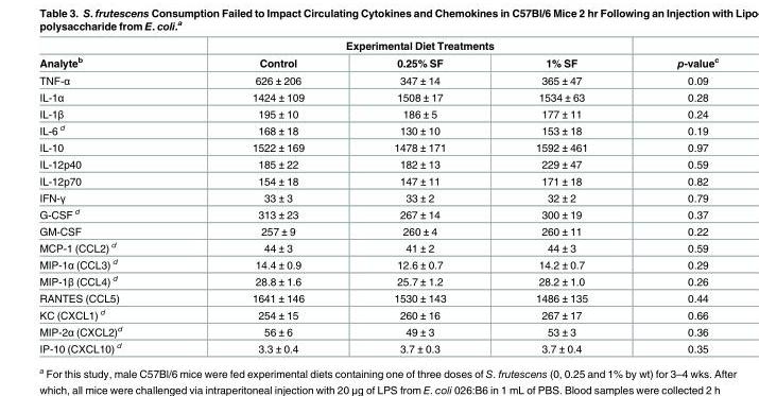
<table><thead><tr><td rowspan="2">Analyte<sup>b</sup></td><td colspan="3">Experimental Diet Treatments</td><td rowspan="2">p-value<sup>c</sup></td></tr><tr><td>Control</td><td>0.25% SF</td><td>1% SF</td></tr></thead><tbody><tr><td>TNF-α</td><td>626 ± 206</td><td>347 ± 14</td><td>365 ± 47</td><td>0.09</td></tr><tr><td>IL-1α</td><td>1424 ± 109</td><td>1508 ± 17</td><td>1534 ± 63</td><td>0.28</td></tr><tr><td>IL-1β</td><td>195 ± 10</td><td>186 ± 5</td><td>177 ± 11</td><td>0.24</td></tr><tr><td>IL-6 <sup>d</sup></td><td>168 ± 18</td><td>130 ± 10</td><td>153 ± 18</td><td>0.19</td></tr><tr><td>IL-10</td><td>1522 ± 169</td><td>1478 ± 171</td><td>1592 ± 461</td><td>0.97</td></tr><tr><td>IL-12p40</td><td>185 ± 22</td><td>182 ± 13</td><td>229 ± 47</td><td>0.59</td></tr><tr><td>IL-12p70</td><td>154 ± 18</td><td>147 ± 11</td><td>171 ± 18</td><td>0.82</td></tr><tr><td>IFN-γ</td><td>33 ± 3</td><td>33 ± 2</td><td>32 ± 2</td><td>0.79</td></tr><tr><td>G-CSF <sup>d</sup></td><td>313 ± 23</td><td>267 ± 14</td><td>300 ± 19</td><td>0.37</td></tr><tr><td>GM-CSF</td><td>257 ± 9</td><td>260 ± 4</td><td>260 ± 11</td><td>0.22</td></tr><tr><td>MCP-1 (CCL2) <sup>d</sup></td><td>44 ± 3</td><td>41 ± 2</td><td>44 ± 3</td><td>0.59</td></tr><tr><td>MIP-1α (CCL3) <sup>d</sup></td><td>14.4 ± 0.9</td><td>12.6 ± 0.7</td><td>14.2 ± 0.7</td><td>0.29</td></tr><tr><td>MIP-1β (CCL4) <sup>d</sup></td><td>28.8 ± 1.6</td><td>25.7 ± 1.2</td><td>28.2 ± 1.0</td><td>0.26</td></tr><tr><td>RANTES (CCL5)</td><td>1641 ± 146</td><td>1530 ± 143</td><td>1486 ± 135</td><td>0.44</td></tr><tr><td>KC (CXCL1) <sup>d</sup></td><td>254 ± 15</td><td>260 ± 16</td><td>267 ± 17</td><td>0.66</td></tr><tr><td>MIP-2α (CXCL2)<sup>d</sup></td><td>56 ± 6</td><td>49 ± 3</td><td>53 ± 3</td><td>0.36</td></tr><tr><td>IP-10 (CXCL10) <sup>d</sup></td><td>3.3 ± 0.4</td><td>3.7 ± 0.3</td><td>3.7 ± 0.4</td><td>0.35</td></tr></tbody></table>